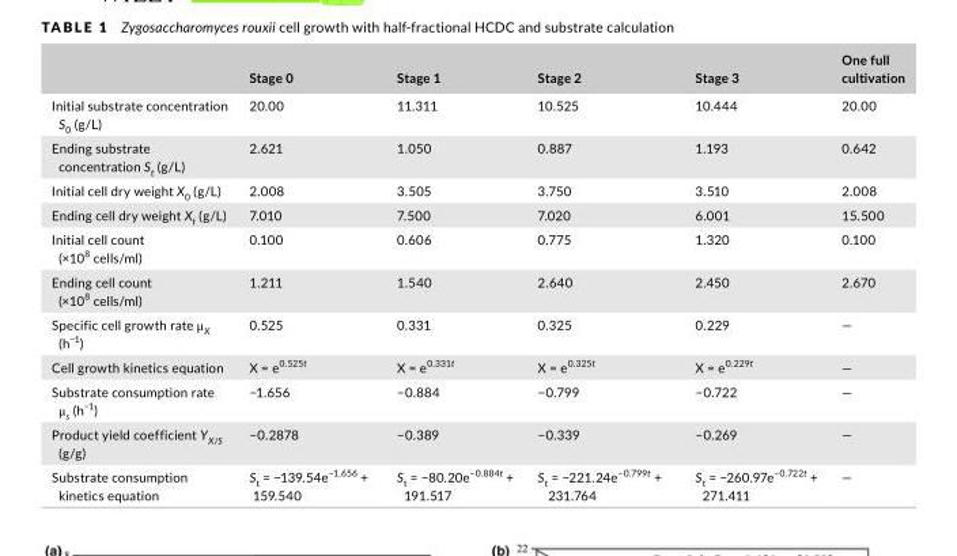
<table><thead><tr><td></td><td>Stage 0</td><td>Stage 1</td><td>Stage 2</td><td>Stage 3</td><td>One full cultivation</td></tr></thead><tbody><tr><td>Initial substrate concentration S<sub>0</sub> (g/L)</td><td>20.00</td><td>11.311</td><td>10.525</td><td>10.444</td><td>20.00</td></tr><tr><td>Ending substrate concentration S<sub>t</sub> (g/L)</td><td>2.621</td><td>1.050</td><td>0.887</td><td>1.193</td><td>0.642</td></tr><tr><td>Initial cell dry weight X<sub>0</sub> (g/L)</td><td>2.008</td><td>3.505</td><td>3.750</td><td>3.510</td><td>2.008</td></tr><tr><td>Ending cell dry weight X<sub>t</sub> (g/L)</td><td>7.010</td><td>7.500</td><td>7.020</td><td>6.001</td><td>15.500</td></tr><tr><td>Initial cell count (×10<sup>8</sup> cells/ml)</td><td>0.100</td><td>0.606</td><td>0.775</td><td>1.320</td><td>0.100</td></tr><tr><td>Ending cell count (×10<sup>8</sup> cells/ml)</td><td>1.211</td><td>1.540</td><td>2.640</td><td>2.450</td><td>2.670</td></tr><tr><td>Specific cell growth rate μ<sub>X</sub> (h<sup>−1</sup>)</td><td>0.525</td><td>0.331</td><td>0.325</td><td>0.229</td><td>—</td></tr><tr><td>Cell growth kinetics equation</td><td>X = e<sup>0.525t</sup></td><td>X = e<sup>0.331t</sup></td><td>X = e<sup>0.325t</sup></td><td>X = e<sup>0.229t</sup></td><td>—</td></tr><tr><td>Substrate consumption rate μ<sub>s</sub> (h<sup>−1</sup>)</td><td>−1.656</td><td>−0.884</td><td>−0.799</td><td>−0.722</td><td>—</td></tr><tr><td>Product yield coefficient Y<sub>X/S</sub> (g/g)</td><td>−0.2878</td><td>−0.389</td><td>−0.339</td><td>−0.269</td><td>—</td></tr><tr><td>Substrate consumption kinetics equation</td><td>S<sub>t</sub> = −139.54e<sup>−1.656</sup> + 159.540</td><td>S<sub>t</sub> = −80.20e<sup>−0.884t</sup> + 191.517</td><td>S<sub>t</sub> = −221.24e<sup>−0.799t</sup> + 231.764</td><td>S<sub>t</sub> = −260.97e<sup>−0.722t</sup> + 271.411</td><td>—</td></tr></tbody></table>